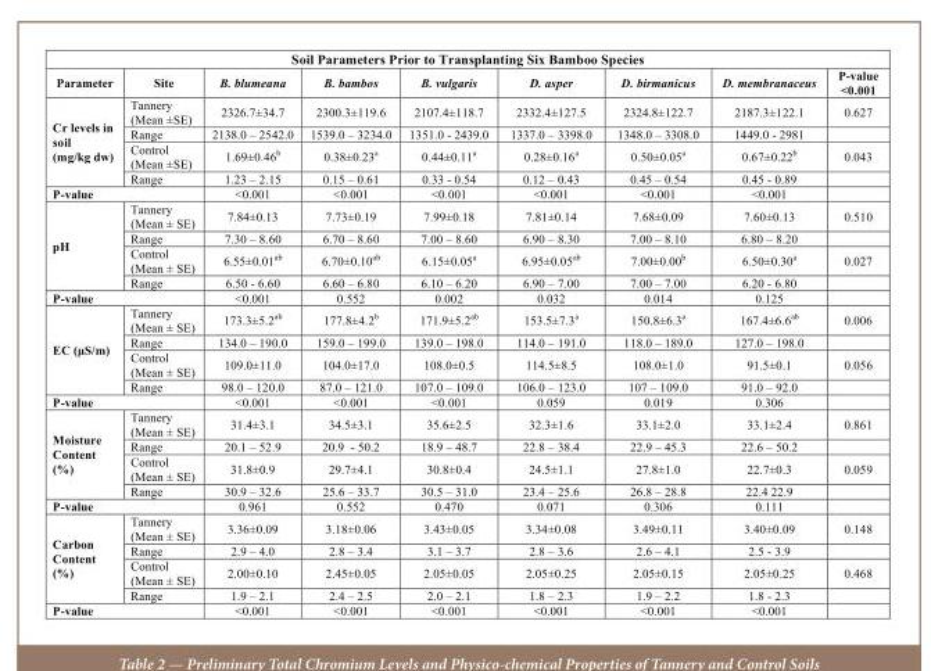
<table><thead><tr><td colspan="9">Soil Parameters Prior to Transplanting Six Bamboo Species</td></tr><tr><td>Parameter</td><td>Site</td><td>B. blumeana</td><td>B. bambos</td><td>B. vulgaris</td><td>D. asper</td><td>D. birmanicus</td><td>D. membranaceus</td><td>P-value &lt;0.001</td></tr></thead><tbody><tr><td rowspan="4">Cr levels in soil (mg/kg dw)</td><td>Tannery (Mean ±SE)</td><td>2326.7±34.7</td><td>2300.3±119.6</td><td>2107.4±118.7</td><td>2332.4±127.5</td><td>2324.8±122.7</td><td>2187.3±122.1</td><td>0.627</td></tr><tr><td>Range</td><td>2138.0 – 2542.0</td><td>1539.0 – 3234.0</td><td>1351.0 - 2439.0</td><td>1337.0 – 3398.0</td><td>1348.0 – 3308.0</td><td>1449.0 - 2981</td><td></td></tr><tr><td>Control (Mean ±SE)</td><td>1.69±0.46<sup>b</sup></td><td>0.38±0.23<sup>a</sup></td><td>0.44±0.11<sup>a</sup></td><td>0.28±0.16<sup>a</sup></td><td>0.50±0.05<sup>a</sup></td><td>0.67±0.22<sup>b</sup></td><td>0.043</td></tr><tr><td>Range</td><td>1.23 – 2.15</td><td>0.15 – 0.61</td><td>0.33 - 0.54</td><td>0.12 – 0.43</td><td>0.45 – 0.54</td><td>0.45 - 0.89</td><td></td></tr><tr><td colspan="2">P-value</td><td>&lt;0.001</td><td>&lt;0.001</td><td>&lt;0.001</td><td>&lt;0.001</td><td>&lt;0.001</td><td>&lt;0.001</td><td></td></tr><tr><td rowspan="4">pH</td><td>Tannery (Mean ± SE)</td><td>7.84±0.13</td><td>7.73±0.19</td><td>7.99±0.18</td><td>7.81±0.14</td><td>7.68±0.09</td><td>7.60±0.13</td><td>0.510</td></tr><tr><td>Range</td><td>7.30 – 8.60</td><td>6.70 – 8.60</td><td>7.00 – 8.60</td><td>6.90 – 8.30</td><td>7.00 – 8.10</td><td>6.80 – 8.20</td><td></td></tr><tr><td>Control (Mean ± SE)</td><td>6.55±0.01<sup>ab</sup></td><td>6.70±0.10<sup>ab</sup></td><td>6.15±0.05<sup>a</sup></td><td>6.95±0.05<sup>ab</sup></td><td>7.00±0.00<sup>b</sup></td><td>6.50±0.30<sup>a</sup></td><td>0.027</td></tr><tr><td>Range</td><td>6.50 - 6.60</td><td>6.60 – 6.80</td><td>6.10 – 6.20</td><td>6.90 – 7.00</td><td>7.00 – 7.00</td><td>6.20 - 6.80</td><td></td></tr><tr><td colspan="2">P-value</td><td>&lt;0.001</td><td>0.552</td><td>0.002</td><td>0.032</td><td>0.014</td><td>0.125</td><td></td></tr><tr><td rowspan="4">EC (µS/m)</td><td>Tannery (Mean ± SE)</td><td>173.3±5.2<sup>ab</sup></td><td>177.8±4.2<sup>b</sup></td><td>171.9±5.2<sup>ab</sup></td><td>153.5±7.3<sup>a</sup></td><td>150.8±6.3<sup>a</sup></td><td>167.4±6.6<sup>ab</sup></td><td>0.006</td></tr><tr><td>Range</td><td>134.0 – 190.0</td><td>159.0 – 199.0</td><td>139.0 – 198.0</td><td>114.0 – 191.0</td><td>118.0 – 189.0</td><td>127.0 – 198.0</td><td></td></tr><tr><td>Control (Mean ± SE)</td><td>109.0±11.0</td><td>104.0±17.0</td><td>108.0±0.5</td><td>114.5±8.5</td><td>108.0±1.0</td><td>91.5±0.1</td><td>0.056</td></tr><tr><td>Range</td><td>98.0 – 120.0</td><td>87.0 – 121.0</td><td>107.0 – 109.0</td><td>106.0 – 123.0</td><td>107 – 109.0</td><td>91.0 – 92.0</td><td></td></tr><tr><td colspan="2">P-value</td><td>&lt;0.001</td><td>&lt;0.001</td><td>&lt;0.001</td><td>0.059</td><td>0.019</td><td>0.306</td><td></td></tr><tr><td rowspan="4">Moisture Content (%)</td><td>Tannery (Mean ± SE)</td><td>31.4±3.1</td><td>34.5±3.1</td><td>35.6±2.5</td><td>32.3±1.6</td><td>33.1±2.0</td><td>33.1±2.4</td><td>0.861</td></tr><tr><td>Range</td><td>20.1 – 52.9</td><td>20.9 - 50.2</td><td>18.9 – 48.7</td><td>22.8 – 38.4</td><td>22.9 – 45.3</td><td>22.6 – 50.2</td><td></td></tr><tr><td>Control (Mean ± SE)</td><td>31.8±0.9</td><td>29.7±4.1</td><td>30.8±0.4</td><td>24.5±1.1</td><td>27.8±1.0</td><td>22.7±0.3</td><td>0.059</td></tr><tr><td>Range</td><td>30.9 – 32.6</td><td>25.6 – 33.7</td><td>30.5 – 31.0</td><td>23.4 – 25.6</td><td>26.8 – 28.8</td><td>22.4 22.9</td><td></td></tr><tr><td colspan="2">P-value</td><td>0.961</td><td>0.552</td><td>0.470</td><td>0.071</td><td>0.306</td><td>0.111</td><td></td></tr><tr><td rowspan="4">Carbon Content (%)</td><td>Tannery (Mean ± SE)</td><td>3.36±0.09</td><td>3.18±0.06</td><td>3.43±0.05</td><td>3.34±0.08</td><td>3.49±0.11</td><td>3.40±0.09</td><td>0.148</td></tr><tr><td>Range</td><td>2.9 – 4.0</td><td>2.8 – 3.4</td><td>3.1 – 3.7</td><td>2.8 – 3.6</td><td>2.6 – 4.1</td><td>2.5 - 3.9</td><td></td></tr><tr><td>Control (Mean ± SE)</td><td>2.00±0.10</td><td>2.45±0.05</td><td>2.05±0.05</td><td>2.05±0.25</td><td>2.05±0.15</td><td>2.05±0.25</td><td>0.468</td></tr><tr><td>Range</td><td>1.9 – 2.1</td><td>2.4 – 2.5</td><td>2.0 – 2.1</td><td>1.8 – 2.3</td><td>1.9 – 2.2</td><td>1.8 - 2.3</td><td></td></tr><tr><td colspan="2">P-value</td><td>&lt;0.001</td><td>&lt;0.001</td><td>&lt;0.001</td><td>&lt;0.001</td><td>&lt;0.001</td><td>&lt;0.001</td><td></td></tr></tbody></table>